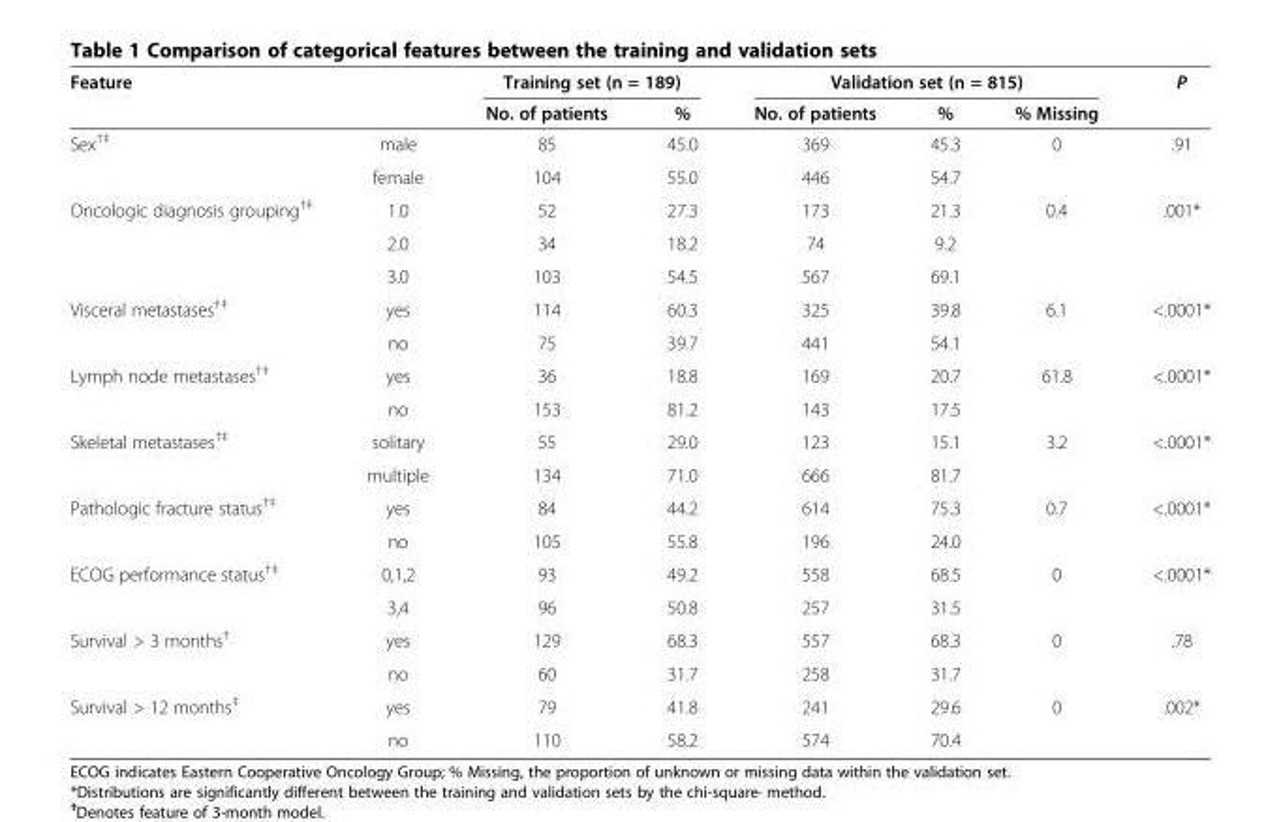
<table><thead><tr><td rowspan="2">Feature</td><td rowspan="2"></td><td colspan="2">Training set (n = 189)</td><td colspan="3">Validation set (n = 815)</td><td rowspan="2">P</td></tr><tr><td>No. of patients</td><td>%</td><td>No. of patients</td><td>%</td><td>% Missing</td></tr></thead><tbody><tr><td rowspan="2">Sex<sup>†‡</sup></td><td>male</td><td>85</td><td>45.0</td><td>369</td><td>45.3</td><td rowspan="2">0</td><td rowspan="2">.91</td></tr><tr><td>female</td><td>104</td><td>55.0</td><td>446</td><td>54.7</td></tr><tr><td rowspan="3">Oncologic diagnosis grouping<sup>†‡</sup></td><td>1.0</td><td>52</td><td>27.3</td><td>173</td><td>21.3</td><td rowspan="3">0.4</td><td rowspan="3">.001*</td></tr><tr><td>2.0</td><td>34</td><td>18.2</td><td>74</td><td>9.2</td></tr><tr><td>3.0</td><td>103</td><td>54.5</td><td>567</td><td>69.1</td></tr><tr><td rowspan="2">Visceral metastases<sup>†‡</sup></td><td>yes</td><td>114</td><td>60.3</td><td>325</td><td>39.8</td><td rowspan="2">6.1</td><td rowspan="2">&lt;.0001*</td></tr><tr><td>no</td><td>75</td><td>39.7</td><td>441</td><td>54.1</td></tr><tr><td rowspan="2">Lymph node metastases<sup>†‡</sup></td><td>yes</td><td>36</td><td>18.8</td><td>169</td><td>20.7</td><td rowspan="2">61.8</td><td rowspan="2">&lt;.0001*</td></tr><tr><td>no</td><td>153</td><td>81.2</td><td>143</td><td>17.5</td></tr><tr><td rowspan="2">Skeletal metastases<sup>†‡</sup></td><td>solitary</td><td>55</td><td>29.0</td><td>123</td><td>15.1</td><td rowspan="2">3.2</td><td rowspan="2">&lt;.0001*</td></tr><tr><td>multiple</td><td>134</td><td>71.0</td><td>666</td><td>81.7</td></tr><tr><td rowspan="2">Pathologic fracture status<sup>†‡</sup></td><td>yes</td><td>84</td><td>44.2</td><td>614</td><td>75.3</td><td rowspan="2">0.7</td><td rowspan="2">&lt;.0001*</td></tr><tr><td>no</td><td>105</td><td>55.8</td><td>196</td><td>24.0</td></tr><tr><td rowspan="2">ECOG performance status<sup>†‡</sup></td><td>0,1,2</td><td>93</td><td>49.2</td><td>558</td><td>68.5</td><td rowspan="2">0</td><td rowspan="2">&lt;.0001*</td></tr><tr><td>3,4</td><td>96</td><td>50.8</td><td>257</td><td>31.5</td></tr><tr><td rowspan="2">Survival &gt; 3 months<sup>†</sup></td><td>yes</td><td>129</td><td>68.3</td><td>557</td><td>68.3</td><td rowspan="2">0</td><td rowspan="2">.78</td></tr><tr><td>no</td><td>60</td><td>31.7</td><td>258</td><td>31.7</td></tr><tr><td rowspan="2">Survival &gt; 12 months<sup>‡</sup></td><td>yes</td><td>79</td><td>41.8</td><td>241</td><td>29.6</td><td rowspan="2">0</td><td rowspan="2">.002*</td></tr><tr><td>no</td><td>110</td><td>58.2</td><td>574</td><td>70.4</td></tr></tbody></table>